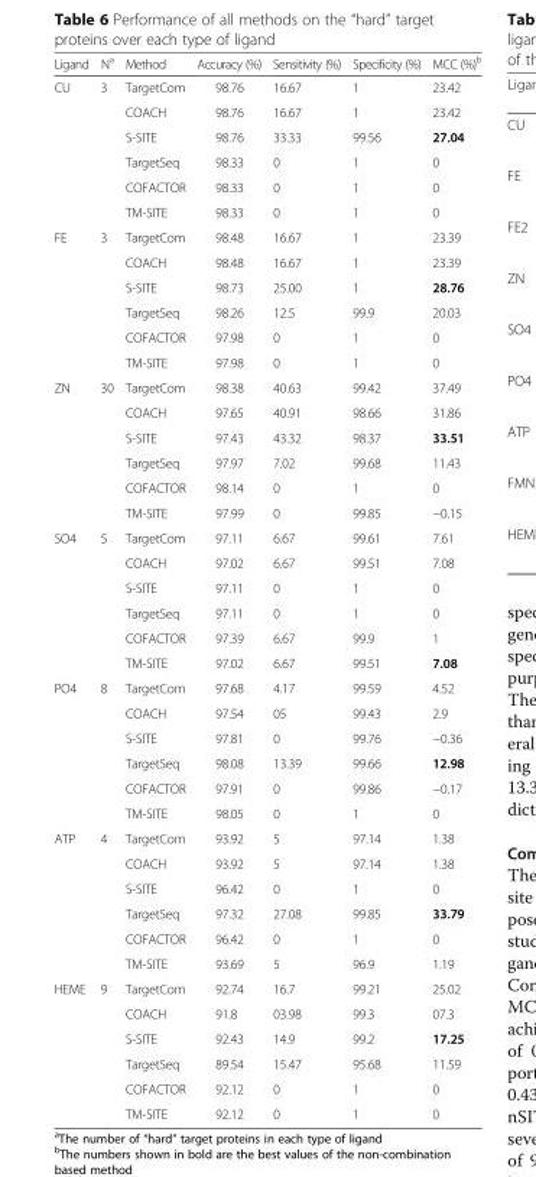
<table><thead><tr><td>Ligand</td><td>N<sup>a</sup></td><td>Method</td><td>Accuracy (%)</td><td>Sensitivity (%)</td><td>Specificity (%)</td><td>MCC (%)<sup>b</sup></td></tr></thead><tbody><tr><td rowspan="6">CU</td><td rowspan="6">3</td><td>TargetCom</td><td>98.76</td><td>16.67</td><td>1</td><td>23.42</td></tr><tr><td>COACH</td><td>98.76</td><td>16.67</td><td>1</td><td>23.42</td></tr><tr><td>S-SITE</td><td>98.76</td><td>33.33</td><td>99.56</td><td>27.04</td></tr><tr><td>TargetSeq</td><td>98.33</td><td>0</td><td>1</td><td>0</td></tr><tr><td>COFACTOR</td><td>98.33</td><td>0</td><td>1</td><td>0</td></tr><tr><td>TM-SITE</td><td>98.33</td><td>0</td><td>1</td><td>0</td></tr><tr><td rowspan="6">FE</td><td rowspan="6">3</td><td>TargetCom</td><td>98.48</td><td>16.67</td><td>1</td><td>23.39</td></tr><tr><td>COACH</td><td>98.48</td><td>16.67</td><td>1</td><td>23.39</td></tr><tr><td>S-SITE</td><td>98.73</td><td>25.00</td><td>1</td><td>28.76</td></tr><tr><td>TargetSeq</td><td>98.26</td><td>12.5</td><td>99.9</td><td>20.03</td></tr><tr><td>COFACTOR</td><td>97.98</td><td>0</td><td>1</td><td>0</td></tr><tr><td>TM-SITE</td><td>97.98</td><td>0</td><td>1</td><td>0</td></tr><tr><td rowspan="6">ZN</td><td rowspan="6">30</td><td>TargetCom</td><td>98.38</td><td>40.63</td><td>99.42</td><td>37.49</td></tr><tr><td>COACH</td><td>97.65</td><td>40.91</td><td>98.66</td><td>31.86</td></tr><tr><td>S-SITE</td><td>97.43</td><td>43.32</td><td>98.37</td><td>33.51</td></tr><tr><td>TargetSeq</td><td>97.97</td><td>7.02</td><td>99.68</td><td>11.43</td></tr><tr><td>COFACTOR</td><td>98.14</td><td>0</td><td>1</td><td>0</td></tr><tr><td>TM-SITE</td><td>97.99</td><td>0</td><td>99.85</td><td>−0.15</td></tr><tr><td rowspan="6">SO4</td><td rowspan="6">5</td><td>TargetCom</td><td>97.11</td><td>6.67</td><td>99.61</td><td>7.61</td></tr><tr><td>COACH</td><td>97.02</td><td>6.67</td><td>99.51</td><td>7.08</td></tr><tr><td>S-SITE</td><td>97.11</td><td>0</td><td>1</td><td>0</td></tr><tr><td>TargetSeq</td><td>97.11</td><td>0</td><td>1</td><td>0</td></tr><tr><td>COFACTOR</td><td>97.39</td><td>6.67</td><td>99.9</td><td>1</td></tr><tr><td>TM-SITE</td><td>97.02</td><td>6.67</td><td>99.51</td><td>7.08</td></tr><tr><td rowspan="6">PO4</td><td rowspan="6">8</td><td>TargetCom</td><td>97.68</td><td>4.17</td><td>99.59</td><td>4.52</td></tr><tr><td>COACH</td><td>97.54</td><td>05</td><td>99.43</td><td>2.9</td></tr><tr><td>S-SITE</td><td>97.81</td><td>0</td><td>99.76</td><td>−0.36</td></tr><tr><td>TargetSeq</td><td>98.08</td><td>13.39</td><td>99.66</td><td>12.98</td></tr><tr><td>COFACTOR</td><td>97.91</td><td>0</td><td>99.86</td><td>−0.17</td></tr><tr><td>TM-SITE</td><td>98.05</td><td>0</td><td>1</td><td>0</td></tr><tr><td rowspan="6">ATP</td><td rowspan="6">4</td><td>TargetCom</td><td>93.92</td><td>5</td><td>97.14</td><td>1.38</td></tr><tr><td>COACH</td><td>93.92</td><td>5</td><td>97.14</td><td>1.38</td></tr><tr><td>S-SITE</td><td>96.42</td><td>0</td><td>1</td><td>0</td></tr><tr><td>TargetSeq</td><td>97.32</td><td>27.08</td><td>99.85</td><td>33.79</td></tr><tr><td>COFACTOR</td><td>96.42</td><td>0</td><td>1</td><td>0</td></tr><tr><td>TM-SITE</td><td>93.69</td><td>5</td><td>96.9</td><td>1.19</td></tr><tr><td rowspan="6">HEME</td><td rowspan="6">9</td><td>TargetCom</td><td>92.74</td><td>16.7</td><td>99.21</td><td>25.02</td></tr><tr><td>COACH</td><td>91.8</td><td>03.98</td><td>99.3</td><td>07.3</td></tr><tr><td>S-SITE</td><td>92.43</td><td>14.9</td><td>99.2</td><td>17.25</td></tr><tr><td>TargetSeq</td><td>89.54</td><td>15.47</td><td>95.68</td><td>11.59</td></tr><tr><td>COFACTOR</td><td>92.12</td><td>0</td><td>1</td><td>0</td></tr><tr><td>TM-SITE</td><td>92.12</td><td>0</td><td>1</td><td>0</td></tr></tbody></table>